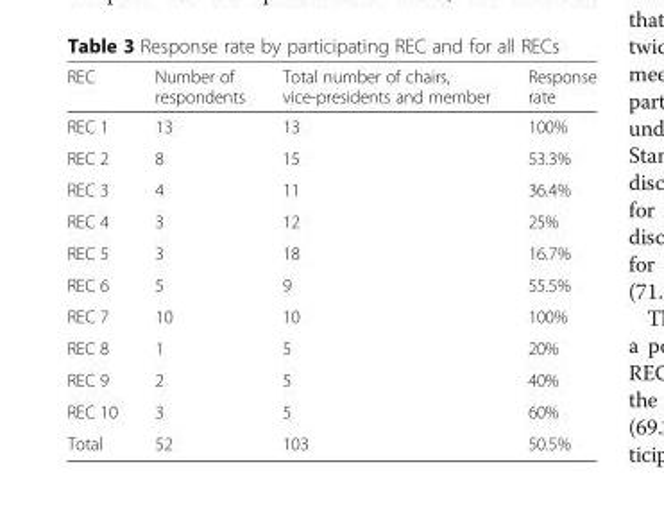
<table><thead><tr><td>REC</td><td>Number of respondents</td><td>Total number of chairs, vice-presidents and member</td><td>Response rate</td></tr></thead><tbody><tr><td>REC 1</td><td>13</td><td>13</td><td>100%</td></tr><tr><td>REC 2</td><td>8</td><td>15</td><td>53.3%</td></tr><tr><td>REC 3</td><td>4</td><td>11</td><td>36.4%</td></tr><tr><td>REC 4</td><td>3</td><td>12</td><td>25%</td></tr><tr><td>REC 5</td><td>3</td><td>18</td><td>16.7%</td></tr><tr><td>REC 6</td><td>5</td><td>9</td><td>55.5%</td></tr><tr><td>REC 7</td><td>10</td><td>10</td><td>100%</td></tr><tr><td>REC 8</td><td>1</td><td>5</td><td>20%</td></tr><tr><td>REC 9</td><td>2</td><td>5</td><td>40%</td></tr><tr><td>REC 10</td><td>3</td><td>5</td><td>60%</td></tr><tr><td>Total</td><td>52</td><td>103</td><td>50.5%</td></tr></tbody></table>